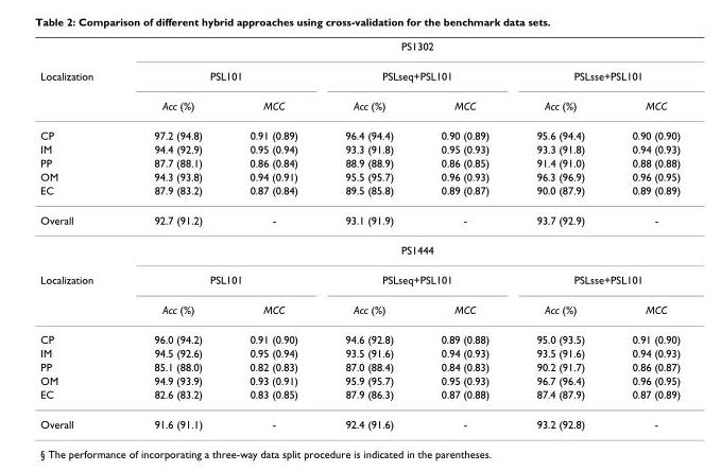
<table><thead><tr><td rowspan="3">Localization</td><td colspan="6">PS1302</td></tr><tr><td colspan="2">PSL101</td><td colspan="2">PSLseq+PSL101</td><td colspan="2">PSLsse+PSL101</td></tr><tr><td>Acc (%)</td><td>MCC</td><td>Acc (%)</td><td>MCC</td><td>Acc (%)</td><td>MCC</td></tr></thead><tbody><tr><td>CP</td><td>97.2 (94.8)</td><td>0.91 (0.89)</td><td>96.4 (94.4)</td><td>0.90 (0.89)</td><td>95.6 (94.4)</td><td>0.90 (0.90)</td></tr><tr><td>IM</td><td>94.4 (92.9)</td><td>0.95 (0.94)</td><td>93.3 (91.8)</td><td>0.95 (0.93)</td><td>93.3 (91.8)</td><td>0.94 (0.93)</td></tr><tr><td>PP</td><td>87.7 (88.1)</td><td>0.86 (0.84)</td><td>88.9 (88.9)</td><td>0.86 (0.85)</td><td>91.4 (91.0)</td><td>0.88 (0.88)</td></tr><tr><td>OM</td><td>94.3 (93.8)</td><td>0.94 (0.91)</td><td>95.5 (95.7)</td><td>0.96 (0.93)</td><td>96.3 (96.9)</td><td>0.96 (0.95)</td></tr><tr><td>EC</td><td>87.9 (83.2)</td><td>0.87 (0.84)</td><td>89.5 (85.8)</td><td>0.89 (0.87)</td><td>90.0 (87.9)</td><td>0.89 (0.89)</td></tr><tr><td rowspan="2">Overall</td><td>92.7 (91.2)</td><td>-</td><td>93.1 (91.9)</td><td>-</td><td>93.7 (92.9)</td><td>-</td></tr><tr><td colspan="6">PS1444</td></tr><tr><td rowspan="2">Localization</td><td colspan="2">PSL101</td><td colspan="2">PSLseq+PSL101</td><td colspan="2">PSLsse+PSL101</td></tr><tr><td>Acc (%)</td><td>MCC</td><td>Acc (%)</td><td>MCC</td><td>Acc (%)</td><td>MCC</td></tr><tr><td>CP</td><td>96.0 (94.2)</td><td>0.91 (0.90)</td><td>94.6 (92.8)</td><td>0.89 (0.88)</td><td>95.0 (93.5)</td><td>0.91 (0.90)</td></tr><tr><td>IM</td><td>94.5 (92.6)</td><td>0.95 (0.94)</td><td>93.5 (91.6)</td><td>0.94 (0.93)</td><td>93.5 (91.6)</td><td>0.94 (0.93)</td></tr><tr><td>PP</td><td>85.1 (88.0)</td><td>0.82 (0.83)</td><td>87.0 (88.4)</td><td>0.84 (0.83)</td><td>90.2 (91.7)</td><td>0.86 (0.87)</td></tr><tr><td>OM</td><td>94.9 (93.9)</td><td>0.93 (0.91)</td><td>95.9 (95.7)</td><td>0.95 (0.93)</td><td>96.7 (96.4)</td><td>0.96 (0.95)</td></tr><tr><td>EC</td><td>82.6 (83.2)</td><td>0.83 (0.85)</td><td>87.9 (86.3)</td><td>0.87 (0.88)</td><td>87.4 (87.9)</td><td>0.87 (0.89)</td></tr><tr><td>Overall</td><td>91.6 (91.1)</td><td>-</td><td>92.4 (91.6)</td><td>-</td><td>93.2 (92.8)</td><td>-</td></tr></tbody></table>